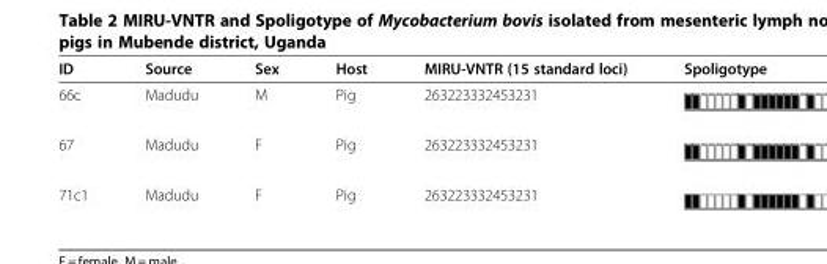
<table><thead><tr><td>ID</td><td>Source</td><td>Sex</td><td>Host</td><td>MIRU-VNTR (15 standard loci)</td><td>Spoligotype</td></tr></thead><tbody><tr><td>66c</td><td>Madudu</td><td>M</td><td>Pig</td><td>263223332453231</td><td></td></tr><tr><td>67</td><td>Madudu</td><td>F</td><td>Pig</td><td>263223332453231</td><td></td></tr><tr><td>71c1</td><td>Madudu</td><td>F</td><td>Pig</td><td>263223332453231</td><td></td></tr></tbody></table>